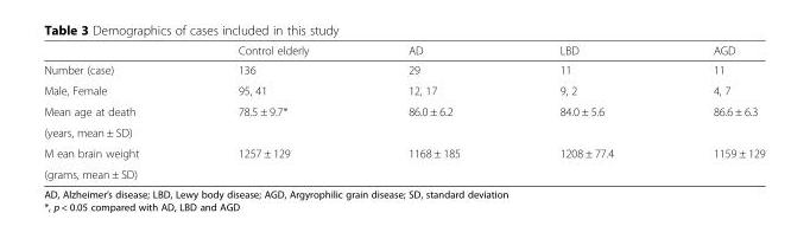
<table><thead><tr><td></td><td>Control elderly</td><td>AD</td><td>LBD</td><td>AGD</td></tr></thead><tbody><tr><td>Number (case)</td><td>136</td><td>29</td><td>11</td><td>11</td></tr><tr><td>Male, Female</td><td>95, 41</td><td>12, 17</td><td>9, 2</td><td>4, 7</td></tr><tr><td>Mean age at death</td><td rowspan="2">78.5 ± 9.7*</td><td rowspan="2">86.0 ± 6.2</td><td rowspan="2">84.0 ± 5.6</td><td rowspan="2">86.6 ± 6.3</td></tr><tr><td>(years, mean ± SD)</td></tr><tr><td>M ean brain weight</td><td rowspan="2">1257 ± 129</td><td rowspan="2">1168 ± 185</td><td rowspan="2">1208 ± 77.4</td><td rowspan="2">1159 ± 129</td></tr><tr><td>(grams, mean ± SD)</td></tr></tbody></table>